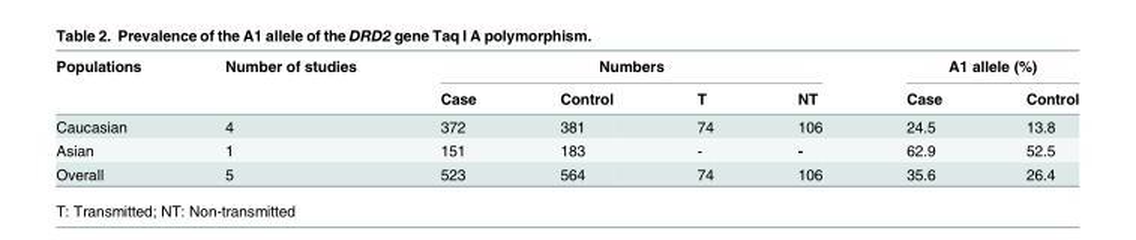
<table><thead><tr><td rowspan="2">Populations</td><td rowspan="2">Number of studies</td><td colspan="4">Numbers</td><td colspan="2">A1 allele (%)</td></tr><tr><td>Case</td><td>Control</td><td>T</td><td>NT</td><td>Case</td><td>Control</td></tr></thead><tbody><tr><td>Caucasian</td><td>4</td><td>372</td><td>381</td><td>74</td><td>106</td><td>24.5</td><td>13.8</td></tr><tr><td>Asian</td><td>1</td><td>151</td><td>183</td><td>-</td><td>-</td><td>62.9</td><td>52.5</td></tr><tr><td>Overall</td><td>5</td><td>523</td><td>564</td><td>74</td><td>106</td><td>35.6</td><td>26.4</td></tr></tbody></table>